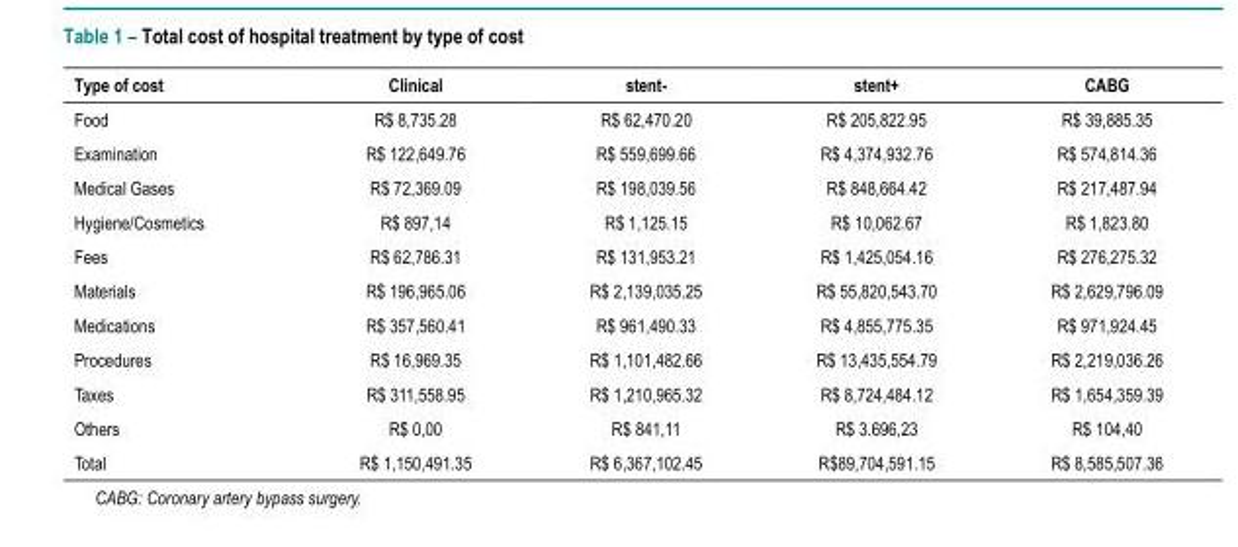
<table><thead><tr><td>Type of cost</td><td>Clinical</td><td>stent-</td><td>stent+</td><td>CABG</td></tr></thead><tbody><tr><td>Food</td><td>R$ 8,735.28</td><td>R$ 62,470.20</td><td>R$ 205,822.95</td><td>R$ 39,885.35</td></tr><tr><td>Examination</td><td>R$ 122,649.76</td><td>R$ 559,699.66</td><td>R$ 4,374,932.76</td><td>R$ 574,814.36</td></tr><tr><td>Medical Gases</td><td>R$ 72,369.09</td><td>R$ 198,039.56</td><td>R$ 848,664.42</td><td>R$ 217,487.94</td></tr><tr><td>Hygiene/Cosmetics</td><td>R$ 897,14</td><td>R$ 1,125.15</td><td>R$ 10,062.67</td><td>R$ 1,823.80</td></tr><tr><td>Fees</td><td>R$ 62,786.31</td><td>R$ 131,953.21</td><td>R$ 1,425,054.16</td><td>R$ 276,275.32</td></tr><tr><td>Materials</td><td>R$ 196,965.06</td><td>R$ 2,139,035.25</td><td>R$ 55,820,543.70</td><td>R$ 2,629,796.09</td></tr><tr><td>Medications</td><td>R$ 357,560.41</td><td>R$ 961,490.33</td><td>R$ 4,855,775.35</td><td>R$ 971,924.45</td></tr><tr><td>Procedures</td><td>R$ 16,969.35</td><td>R$ 1,101,482.66</td><td>R$ 13,435,554.79</td><td>R$ 2,219,036.26</td></tr><tr><td>Taxes</td><td>R$ 311,558.95</td><td>R$ 1,210,965.32</td><td>R$ 8,724,484.12</td><td>R$ 1,654,359.39</td></tr><tr><td>Others</td><td>R$ 0,00</td><td>R$ 841,11</td><td>R$ 3.696,23</td><td>R$ 104,40</td></tr><tr><td>Total</td><td>R$ 1,150,491.35</td><td>R$ 6,367,102.45</td><td>R$89,704,591.15</td><td>R$ 8,585,507.36</td></tr></tbody></table>